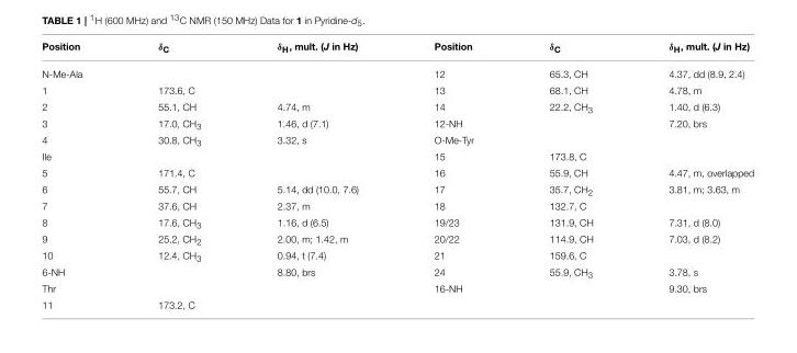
<table><thead><tr><td>Position</td><td>δ<sub>C</sub></td><td>δ<sub>H</sub>, mult. (J in Hz)</td><td>Position</td><td>δ<sub>C</sub></td><td>δ<sub>H</sub>, mult. (J in Hz)</td></tr></thead><tbody><tr><td>N-Me-Ala</td><td></td><td></td><td>12</td><td>65.3, CH</td><td>4.37, dd (8.9, 2.4)</td></tr><tr><td>1</td><td>173.6, C</td><td></td><td>13</td><td>68.1, CH</td><td>4.78, m</td></tr><tr><td>2</td><td>55.1, CH</td><td>4.74, m</td><td>14</td><td>22.2, CH<sub>3</sub></td><td>1.40, d (6.3)</td></tr><tr><td>3</td><td>17.0, CH<sub>3</sub></td><td>1.46, d (7.1)</td><td>12-NH</td><td></td><td>7.20, brs</td></tr><tr><td>4</td><td>30.8, CH<sub>3</sub></td><td>3.32, s</td><td>O-Me-Tyr</td><td></td><td></td></tr><tr><td>Ile</td><td></td><td></td><td>15</td><td>173.8, C</td><td></td></tr><tr><td>5</td><td>171.4, C</td><td></td><td>16</td><td>55.9, CH</td><td>4.47, m, overlapped</td></tr><tr><td>6</td><td>55.7, CH</td><td>5.14, dd (10.0, 7.6)</td><td>17</td><td>35.7, CH<sub>2</sub></td><td>3.81, m; 3.63, m</td></tr><tr><td>7</td><td>37.6, CH</td><td>2.37, m</td><td>18</td><td>132.7, C</td><td></td></tr><tr><td>8</td><td>17.6, CH<sub>3</sub></td><td>1.16, d (6.5)</td><td>19/23</td><td>131.9, CH</td><td>7.31, d (8.0)</td></tr><tr><td>9</td><td>25.2, CH<sub>2</sub></td><td>2.00, m; 1.42, m</td><td>20/22</td><td>114.9, CH</td><td>7.03, d (8.2)</td></tr><tr><td>10</td><td>12.4, CH<sub>3</sub></td><td>0.94, t (7.4)</td><td>21</td><td>159.6, C</td><td></td></tr><tr><td>6-NH</td><td></td><td>8.80, brs</td><td>24</td><td>55.9, CH<sub>3</sub></td><td>3.78, s</td></tr><tr><td>Thr</td><td></td><td></td><td>16-NH</td><td></td><td>9.30, brs</td></tr><tr><td>11</td><td>173.2, C</td><td></td><td></td><td></td><td></td></tr></tbody></table>